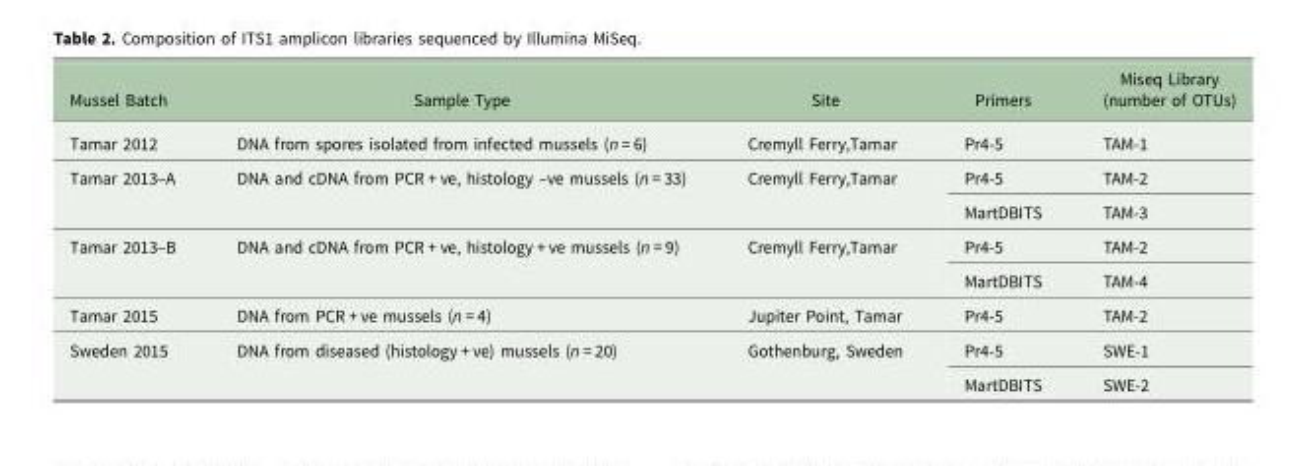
<table><thead><tr><td>Mussel Batch</td><td>Sample Type</td><td>Site</td><td>Primers</td><td>Miseq Library (number of OTUs)</td></tr></thead><tbody><tr><td>Tamar 2012</td><td>DNA from spores isolated from infected mussels (n = 6)</td><td>Cremyll Ferry,Tamar</td><td>Pr4-5</td><td>TAM-1</td></tr><tr><td rowspan="2">Tamar 2013–A</td><td rowspan="2">DNA and cDNA from PCR + ve, histology –ve mussels (n = 33)</td><td rowspan="2">Cremyll Ferry,Tamar</td><td>Pr4-5</td><td>TAM-2</td></tr><tr><td>MartDBITS</td><td>TAM-3</td></tr><tr><td rowspan="2">Tamar 2013–B</td><td rowspan="2">DNA and cDNA from PCR + ve, histology + ve mussels (n = 9)</td><td rowspan="2">Cremyll Ferry,Tamar</td><td>Pr4-5</td><td>TAM-2</td></tr><tr><td>MartDBITS</td><td>TAM-4</td></tr><tr><td>Tamar 2015</td><td>DNA from PCR + ve mussels (n = 4)</td><td>Jupiter Point, Tamar</td><td>Pr4-5</td><td>TAM-2</td></tr><tr><td rowspan="2">Sweden 2015</td><td rowspan="2">DNA from diseased (histology + ve) mussels (n = 20)</td><td rowspan="2">Gothenburg, Sweden</td><td>Pr4-5</td><td>SWE-1</td></tr><tr><td>MartDBITS</td><td>SWE-2</td></tr></tbody></table>